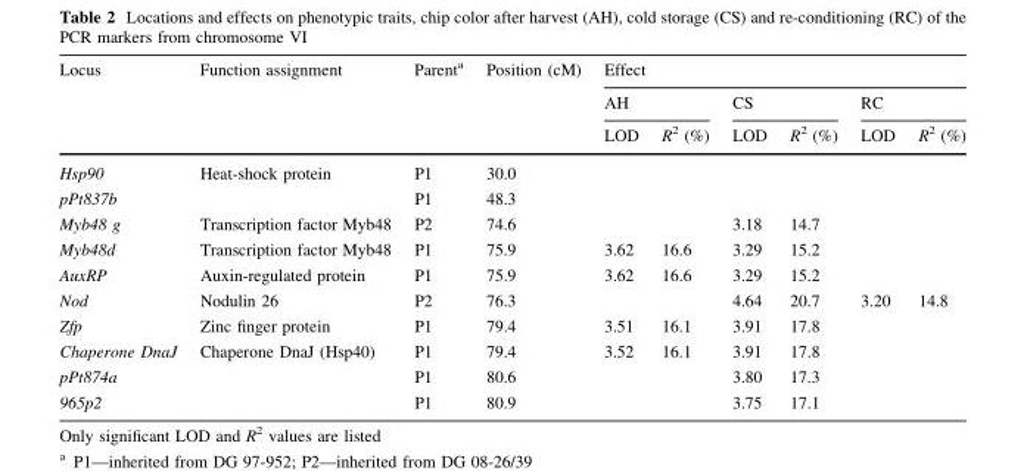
<table><thead><tr><td rowspan="3">Locus</td><td rowspan="3">Function assignment</td><td rowspan="3">Parent<sup>a</sup></td><td rowspan="3">Position (cM)</td><td colspan="6">Effect</td></tr><tr><td colspan="2">AH</td><td colspan="2">CS</td><td colspan="2">RC</td></tr><tr><td>LOD</td><td>R<sup>2</sup> (%)</td><td>LOD</td><td>R<sup>2</sup> (%)</td><td>LOD</td><td>R<sup>2</sup> (%)</td></tr></thead><tbody><tr><td>Hsp90</td><td>Heat-shock protein</td><td>P1</td><td>30.0</td><td></td><td></td><td></td><td></td><td></td><td></td></tr><tr><td>pPt837b</td><td></td><td>P1</td><td>48.3</td><td></td><td></td><td></td><td></td><td></td><td></td></tr><tr><td>Myb48 g</td><td>Transcription factor Myb48</td><td>P2</td><td>74.6</td><td></td><td></td><td>3.18</td><td>14.7</td><td></td><td></td></tr><tr><td>Myb48d</td><td>Transcription factor Myb48</td><td>P1</td><td>75.9</td><td>3.62</td><td>16.6</td><td>3.29</td><td>15.2</td><td></td><td></td></tr><tr><td>AuxRP</td><td>Auxin-regulated protein</td><td>P1</td><td>75.9</td><td>3.62</td><td>16.6</td><td>3.29</td><td>15.2</td><td></td><td></td></tr><tr><td>Nod</td><td>Nodulin 26</td><td>P2</td><td>76.3</td><td></td><td></td><td>4.64</td><td>20.7</td><td>3.20</td><td>14.8</td></tr><tr><td>Zfp</td><td>Zinc finger protein</td><td>P1</td><td>79.4</td><td>3.51</td><td>16.1</td><td>3.91</td><td>17.8</td><td></td><td></td></tr><tr><td>Chaperone DnaJ</td><td>Chaperone DnaJ (Hsp40)</td><td>P1</td><td>79.4</td><td>3.52</td><td>16.1</td><td>3.91</td><td>17.8</td><td></td><td></td></tr><tr><td>pPt874a</td><td></td><td>P1</td><td>80.6</td><td></td><td></td><td>3.80</td><td>17.3</td><td></td><td></td></tr><tr><td>965p2</td><td></td><td>P1</td><td>80.9</td><td></td><td></td><td>3.75</td><td>17.1</td><td></td><td></td></tr></tbody></table>